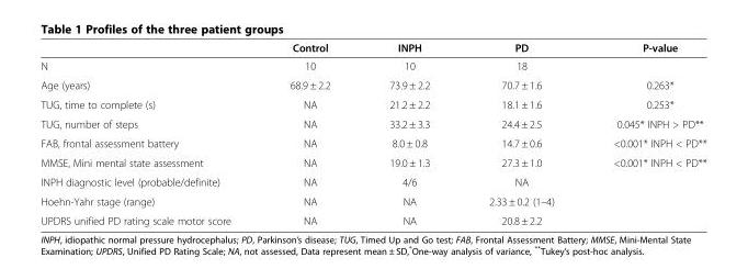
<table><thead><tr><td></td><td>Control</td><td>INPH</td><td>PD</td><td>P-value</td></tr></thead><tbody><tr><td>N</td><td>10</td><td>10</td><td>18</td><td></td></tr><tr><td>Age (years)</td><td>68.9 ± 2.2</td><td>73.9 ± 2.2</td><td>70.7 ± 1.6</td><td>0.263*</td></tr><tr><td>TUG, time to complete (s)</td><td>NA</td><td>21.2 ± 2.2</td><td>18.1 ± 1.6</td><td>0.253*</td></tr><tr><td>TUG, number of steps</td><td>NA</td><td>33.2 ± 3.3</td><td>24.4 ± 2.5</td><td>0.045* INPH &gt; PD**</td></tr><tr><td>FAB, frontal assessment battery</td><td>NA</td><td>8.0 ± 0.8</td><td>14.7 ± 0.6</td><td>&lt;0.001* INPH &lt; PD**</td></tr><tr><td>MMSE, Mini mental state assessment</td><td>NA</td><td>19.0 ± 1.3</td><td>27.3 ± 1.0</td><td>&lt;0.001* INPH &lt; PD**</td></tr><tr><td>INPH diagnostic level (probable/definite)</td><td>NA</td><td>4/6</td><td>NA</td><td></td></tr><tr><td>Hoehn-Yahr stage (range)</td><td>NA</td><td>NA</td><td>2.33 ± 0.2 (1–4)</td><td></td></tr><tr><td>UPDRS unified PD rating scale motor score</td><td>NA</td><td>NA</td><td>20.8 ± 2.2</td><td></td></tr></tbody></table>